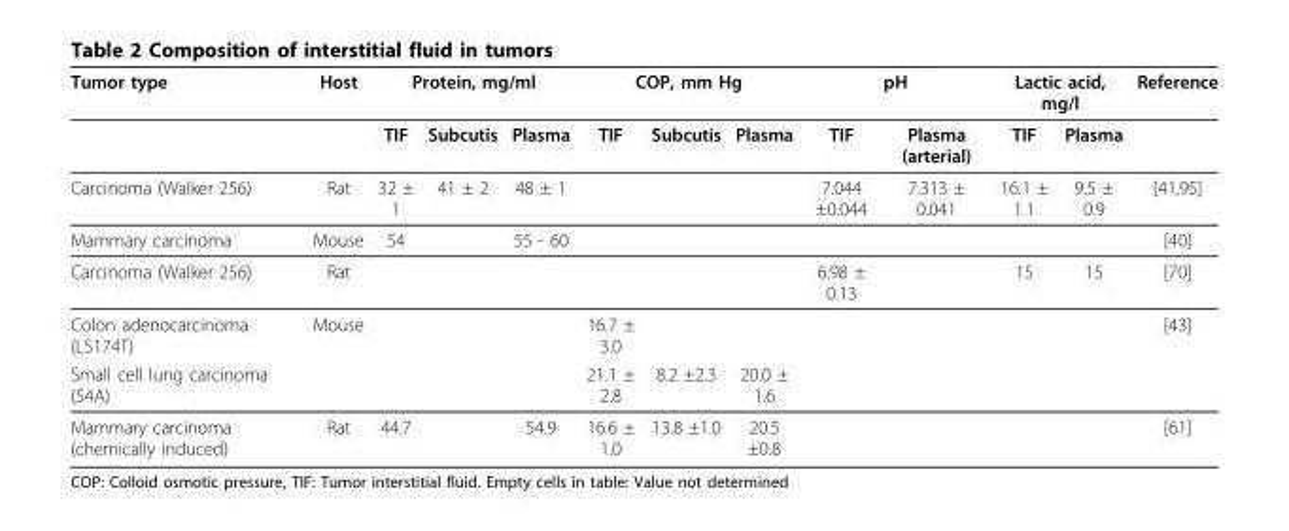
<table><thead><tr><td rowspan="2">Tumor type</td><td rowspan="2">Host</td><td colspan="3">Protein, mg/ml</td><td colspan="3">COP, mm Hg</td><td colspan="2">pH</td><td colspan="2">Lactic acid, mg/l</td><td rowspan="2">Reference</td></tr><tr><td>TIF</td><td>Subcutis</td><td>Plasma</td><td>TIF</td><td>Subcutis</td><td>Plasma</td><td>TIF</td><td>Plasma (arterial)</td><td>TIF</td><td>Plasma</td></tr></thead><tbody><tr><td>Carcinoma (Walker 256)</td><td>Rat</td><td>32 ± 1</td><td>41 ± 2</td><td>48 ± 1</td><td></td><td></td><td></td><td>7.044 ±0.044</td><td>7.313 ± 0.041</td><td>16.1 ± 1.1</td><td>9.5 ± 0.9</td><td>[41,95]</td></tr><tr><td>Mammary carcinoma</td><td>Mouse</td><td>54</td><td></td><td>55 - 60</td><td></td><td></td><td></td><td></td><td></td><td></td><td></td><td>[40]</td></tr><tr><td>Carcinoma (Walker 256)</td><td>Rat</td><td></td><td></td><td></td><td></td><td></td><td></td><td>6.98 ± 0.13</td><td></td><td>15</td><td>15</td><td>[70]</td></tr><tr><td>Colon adenocarcinoma (LS174T)</td><td>Mouse</td><td></td><td></td><td></td><td>16.7 ± 3.0</td><td></td><td></td><td></td><td></td><td></td><td></td><td>[43]</td></tr><tr><td>Small cell lung carcinoma (54A)</td><td></td><td></td><td></td><td></td><td>21.1 ± 2.8</td><td>8.2 ±2.3</td><td>20.0 ± 1.6</td><td></td><td></td><td></td><td></td><td></td></tr><tr><td>Mammary carcinoma (chemically induced)</td><td>Rat</td><td>44.7</td><td></td><td>54.9</td><td>16.6 ± 1.0</td><td>13.8 ±1.0</td><td>20.5 ±0.8</td><td></td><td></td><td></td><td></td><td>[61]</td></tr></tbody></table>